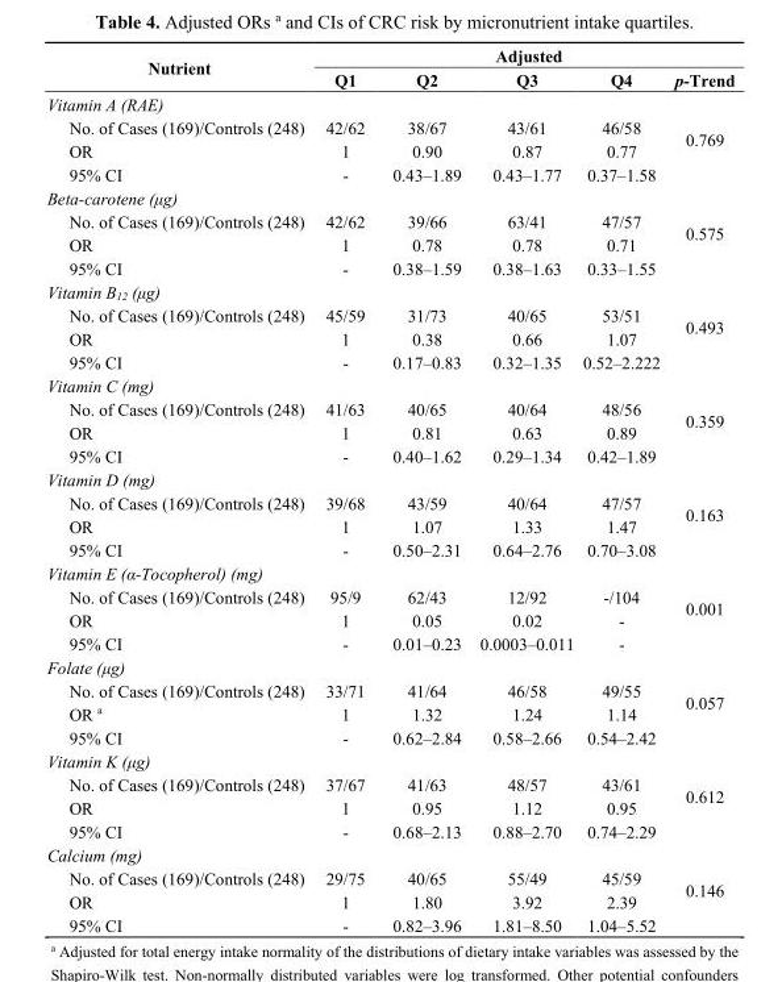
<table><thead><tr><td rowspan="2">Nutrient</td><td colspan="5">Adjusted</td></tr><tr><td>Q1</td><td>Q2</td><td>Q3</td><td>Q4</td><td>p-Trend</td></tr></thead><tbody><tr><td colspan="5">Vitamin A (RAE)</td><td rowspan="4">0.769</td></tr><tr><td>No. of Cases (169)/Controls (248)</td><td>42/62</td><td>38/67</td><td>43/61</td><td>46/58</td></tr><tr><td>OR</td><td>1</td><td>0.90</td><td>0.87</td><td>0.77</td></tr><tr><td>95% CI</td><td>-</td><td>0.43–1.89</td><td>0.43–1.77</td><td>0.37–1.58</td></tr><tr><td colspan="5">Beta-carotene (μg)</td><td rowspan="4">0.575</td></tr><tr><td>No. of Cases (169)/Controls (248)</td><td>42/62</td><td>39/66</td><td>63/41</td><td>47/57</td></tr><tr><td>OR</td><td>1</td><td>0.78</td><td>0.78</td><td>0.71</td></tr><tr><td>95% CI</td><td>-</td><td>0.38–1.59</td><td>0.38–1.63</td><td>0.33–1.55</td></tr><tr><td colspan="5">Vitamin B<sub>12</sub> (μg)</td><td rowspan="4">0.493</td></tr><tr><td>No. of Cases (169)/Controls (248)</td><td>45/59</td><td>31/73</td><td>40/65</td><td>53/51</td></tr><tr><td>OR</td><td>1</td><td>0.38</td><td>0.66</td><td>1.07</td></tr><tr><td>95% CI</td><td>-</td><td>0.17–0.83</td><td>0.32–1.35</td><td>0.52–2.222</td></tr><tr><td colspan="5">Vitamin C (mg)</td><td rowspan="4">0.359</td></tr><tr><td>No. of Cases (169)/Controls (248)</td><td>41/63</td><td>40/65</td><td>40/64</td><td>48/56</td></tr><tr><td>OR</td><td>1</td><td>0.81</td><td>0.63</td><td>0.89</td></tr><tr><td>95% CI</td><td>-</td><td>0.40–1.62</td><td>0.29–1.34</td><td>0.42–1.89</td></tr><tr><td colspan="5">Vitamin D (mg)</td><td rowspan="4">0.163</td></tr><tr><td>No. of Cases (169)/Controls (248)</td><td>39/68</td><td>43/59</td><td>40/64</td><td>47/57</td></tr><tr><td>OR</td><td>1</td><td>1.07</td><td>1.33</td><td>1.47</td></tr><tr><td>95% CI</td><td>-</td><td>0.50–2.31</td><td>0.64–2.76</td><td>0.70–3.08</td></tr><tr><td colspan="5">Vitamin E (α-Tocopherol) (mg)</td><td rowspan="4">0.001</td></tr><tr><td>No. of Cases (169)/Controls (248)</td><td>95/9</td><td>62/43</td><td>12/92</td><td>-/104</td></tr><tr><td>OR</td><td>1</td><td>0.05</td><td>0.02</td><td>-</td></tr><tr><td>95% CI</td><td>-</td><td>0.01–0.23</td><td>0.0003–0.011</td><td>-</td></tr><tr><td colspan="5">Folate (μg)</td><td rowspan="4">0.057</td></tr><tr><td>No. of Cases (169)/Controls (248)</td><td>33/71</td><td>41/64</td><td>46/58</td><td>49/55</td></tr><tr><td>OR <sup>a</sup></td><td>1</td><td>1.32</td><td>1.24</td><td>1.14</td></tr><tr><td>95% CI</td><td>-</td><td>0.62–2.84</td><td>0.58–2.66</td><td>0.54–2.42</td></tr><tr><td colspan="5">Vitamin K (μg)</td><td rowspan="4">0.612</td></tr><tr><td>No. of Cases (169)/Controls (248)</td><td>37/67</td><td>41/63</td><td>48/57</td><td>43/61</td></tr><tr><td>OR</td><td>1</td><td>0.95</td><td>1.12</td><td>0.95</td></tr><tr><td>95% CI</td><td>-</td><td>0.68–2.13</td><td>0.88–2.70</td><td>0.74–2.29</td></tr><tr><td colspan="5">Calcium (mg)</td><td rowspan="4">0.146</td></tr><tr><td>No. of Cases (169)/Controls (248)</td><td>29/75</td><td>40/65</td><td>55/49</td><td>45/59</td></tr><tr><td>OR</td><td>1</td><td>1.80</td><td>3.92</td><td>2.39</td></tr><tr><td>95% CI</td><td>-</td><td>0.82–3.96</td><td>1.81–8.50</td><td>1.04–5.52</td></tr></tbody></table>